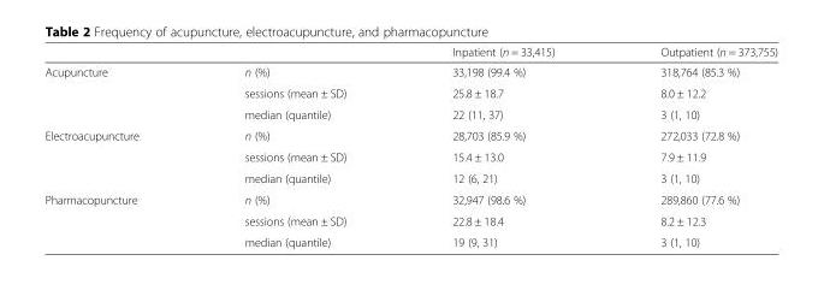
<table><thead><tr><td></td><td></td><td>Inpatient (n = 33,415)</td><td>Outpatient (n = 373,755)</td></tr></thead><tbody><tr><td rowspan="3">Acupuncture</td><td>n (%)</td><td>33,198 (99.4 %)</td><td>318,764 (85.3 %)</td></tr><tr><td>sessions (mean ± SD)</td><td>25.8 ± 18.7</td><td>8.0 ± 12.2</td></tr><tr><td>median (quantile)</td><td>22 (11, 37)</td><td>3 (1, 10)</td></tr><tr><td rowspan="3">Electroacupuncture</td><td>n (%)</td><td>28,703 (85.9 %)</td><td>272,033 (72.8 %)</td></tr><tr><td>sessions (mean ± SD)</td><td>15.4 ± 13.0</td><td>7.9 ± 11.9</td></tr><tr><td>median (quantile)</td><td>12 (6, 21)</td><td>3 (1, 10)</td></tr><tr><td rowspan="3">Pharmacopuncture</td><td>n (%)</td><td>32,947 (98.6 %)</td><td>289,860 (77.6 %)</td></tr><tr><td>sessions (mean ± SD)</td><td>22.8 ± 18.4</td><td>8.2 ± 12.3</td></tr><tr><td>median (quantile)</td><td>19 (9, 31)</td><td>3 (1, 10)</td></tr></tbody></table>